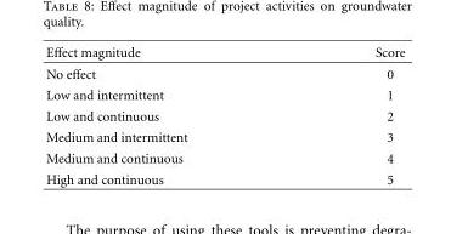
<table><thead><tr><td>Effect magnitude</td><td>Score</td></tr></thead><tbody><tr><td>No effect</td><td>0</td></tr><tr><td>Low and intermittent</td><td>1</td></tr><tr><td>Low and continuous</td><td>2</td></tr><tr><td>Medium and intermittent</td><td>3</td></tr><tr><td>Medium and continuous</td><td>4</td></tr><tr><td>High and continuous</td><td>5</td></tr></tbody></table>